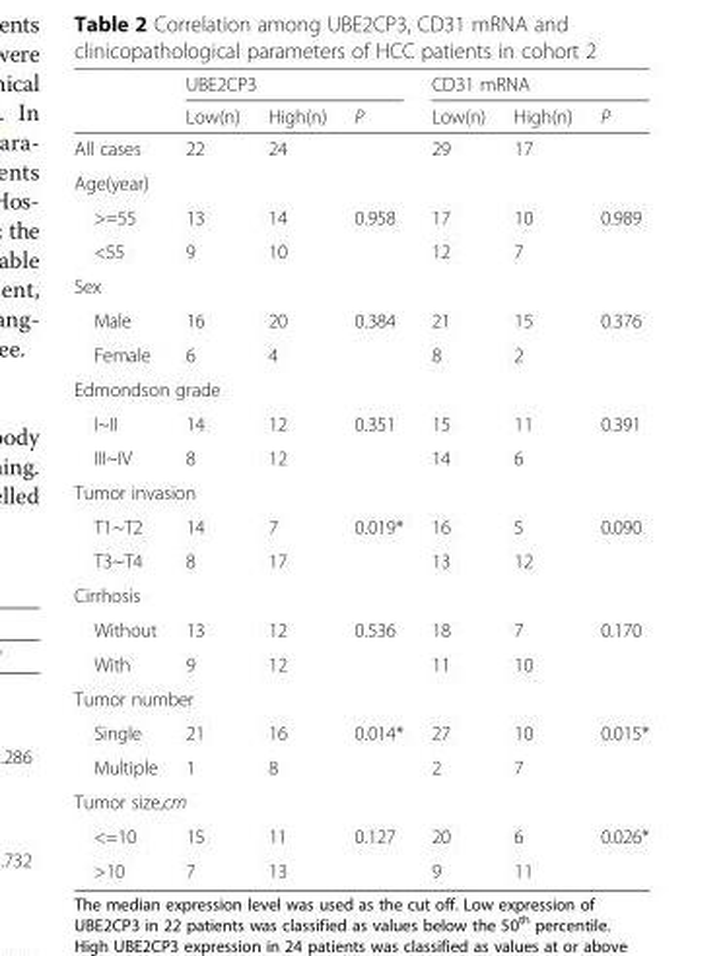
<table><thead><tr><td rowspan="2"></td><td colspan="3">UBE2CP3</td><td colspan="3">CD31 mRNA</td></tr><tr><td>Low(n)</td><td>High(n)</td><td>P</td><td>Low(n)</td><td>High(n)</td><td>P</td></tr></thead><tbody><tr><td>All cases</td><td>22</td><td>24</td><td></td><td>29</td><td>17</td><td></td></tr><tr><td colspan="7">Age(year)</td></tr><tr><td>&gt;=55</td><td>13</td><td>14</td><td>0.958</td><td>17</td><td>10</td><td>0.989</td></tr><tr><td>&lt;55</td><td>9</td><td>10</td><td></td><td>12</td><td>7</td><td></td></tr><tr><td colspan="7">Sex</td></tr><tr><td>Male</td><td>16</td><td>20</td><td>0.384</td><td>21</td><td>15</td><td>0.376</td></tr><tr><td>Female</td><td>6</td><td>4</td><td></td><td>8</td><td>2</td><td></td></tr><tr><td colspan="7">Edmondson grade</td></tr><tr><td>I~II</td><td>14</td><td>12</td><td>0.351</td><td>15</td><td>11</td><td>0.391</td></tr><tr><td>III~IV</td><td>8</td><td>12</td><td></td><td>14</td><td>6</td><td></td></tr><tr><td colspan="7">Tumor invasion</td></tr><tr><td>T1~T2</td><td>14</td><td>7</td><td>0.019*</td><td>16</td><td>5</td><td>0.090</td></tr><tr><td>T3~T4</td><td>8</td><td>17</td><td></td><td>13</td><td>12</td><td></td></tr><tr><td colspan="7">Cirrhosis</td></tr><tr><td>Without</td><td>13</td><td>12</td><td>0.536</td><td>18</td><td>7</td><td>0.170</td></tr><tr><td>With</td><td>9</td><td>12</td><td></td><td>11</td><td>10</td><td></td></tr><tr><td colspan="7">Tumor number</td></tr><tr><td>Single</td><td>21</td><td>16</td><td>0.014*</td><td>27</td><td>10</td><td>0.015*</td></tr><tr><td>Multiple</td><td>1</td><td>8</td><td></td><td>2</td><td>7</td><td></td></tr><tr><td colspan="7">Tumor size,cm</td></tr><tr><td>&lt;=10</td><td>15</td><td>11</td><td>0.127</td><td>20</td><td>6</td><td>0.026*</td></tr><tr><td>&gt;10</td><td>7</td><td>13</td><td></td><td>9</td><td>11</td><td></td></tr></tbody></table>